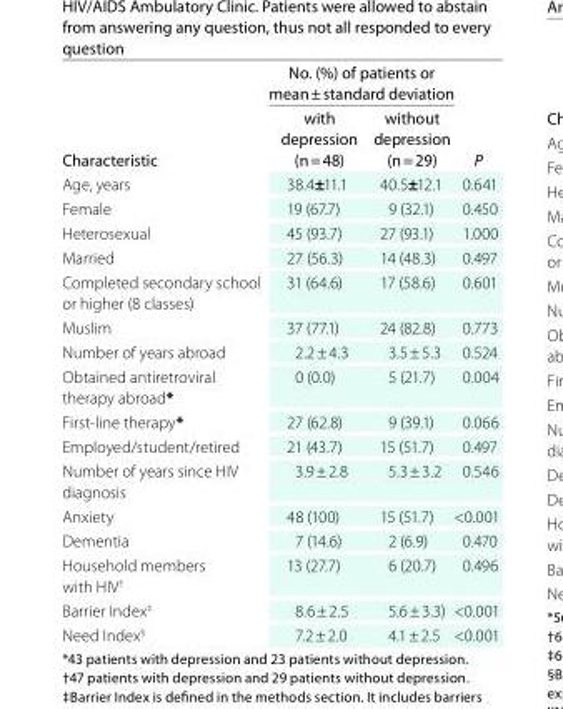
<table><thead><tr><td rowspan="2">Characteristic</td><td colspan="2">no. (%) of patients or mean ± standard deviation</td><td rowspan="2">P</td></tr><tr><td>with depression (n = 48)</td><td>without depression (n = 29)</td></tr></thead><tbody><tr><td>Age, years</td><td>38.4±11.1</td><td>40.5±12.1</td><td>0.641</td></tr><tr><td>Female</td><td>19 (67.7)</td><td>9 (32.1)</td><td>0.450</td></tr><tr><td>Heterosexual</td><td>45 (93.7)</td><td>27 (93.1)</td><td>1.000</td></tr><tr><td>Married</td><td>27 (56.3)</td><td>14 (48.3)</td><td>0.497</td></tr><tr><td>Completed secondary school or higher (8 classes)</td><td>31 (64.6)</td><td>17 (58.6)</td><td>0.601</td></tr><tr><td>Muslim</td><td>37 (77.1)</td><td>24 (82.8)</td><td>0.773</td></tr><tr><td>Number of years abroad</td><td>2.2 ± 4.3</td><td>3.5 ± 5.3</td><td>0.524</td></tr><tr><td>Obtained antiretroviral therapy abroad*</td><td>0 (0.0)</td><td>5 (21.7)</td><td>0.004</td></tr><tr><td>First-line therapy*</td><td>27 (62.8)</td><td>9 (39.1)</td><td>0.066</td></tr><tr><td>Employed/student/retired</td><td>21 (43.7)</td><td>15 (51.7)</td><td>0.497</td></tr><tr><td>Number of years since HIV diagnosis</td><td>3.9 ± 2.8</td><td>5.3 ± 3.2</td><td>0.546</td></tr><tr><td>Anxiety</td><td>48 (100)</td><td>15 (51.7)</td><td>&lt;0.001</td></tr><tr><td>Dementia</td><td>7 (14.6)</td><td>2 (6.9)</td><td>0.470</td></tr><tr><td>Household members with HIV<sup>†</sup></td><td>13 (27.7)</td><td>6 (20.7)</td><td>0.496</td></tr><tr><td>Barrier Index<sup>‡</sup></td><td>8.6 ± 2.5</td><td>5.6 ± 3.3)</td><td>&lt;0.001</td></tr><tr><td>Need Index<sup>§</sup></td><td>7.2 ± 2.0</td><td>4.1 ± 2.5</td><td>&lt;0.001</td></tr></tbody></table>